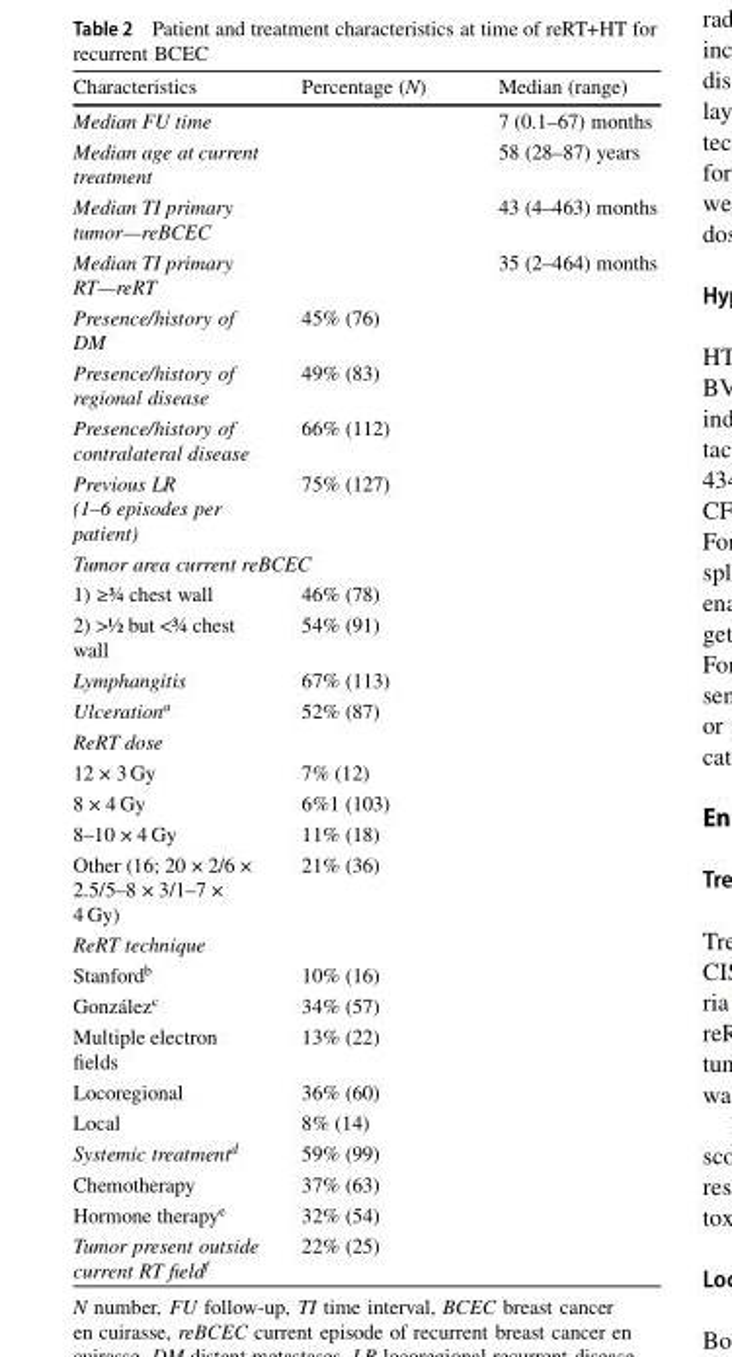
<table><thead><tr><td>Characteristics</td><td>Percentage (N)</td><td>Median (range)</td></tr></thead><tbody><tr><td>Median FU time</td><td></td><td>7 (0.1–67) months</td></tr><tr><td>Median age at current treatment</td><td></td><td>58 (28–87) years</td></tr><tr><td>Median TI primary tumor—reBCEC</td><td></td><td>43 (4–463) months</td></tr><tr><td>Median TI primary RT—reRT</td><td></td><td>35 (2–464) months</td></tr><tr><td>Presence/history of DM</td><td>45% (76)</td><td></td></tr><tr><td>Presence/history of regional disease</td><td>49% (83)</td><td></td></tr><tr><td>Presence/history of contralateral disease</td><td>66% (112)</td><td></td></tr><tr><td>Previous LR (1–6 episodes per patient)</td><td>75% (127)</td><td></td></tr><tr><td colspan="3">Tumor area current reBCEC</td></tr><tr><td>1) ≥¾ chest wall</td><td>46% (78)</td><td></td></tr><tr><td>2) &gt;½ but &lt;¾ chest wall</td><td>54% (91)</td><td></td></tr><tr><td>Lymphangitis</td><td>67% (113)</td><td></td></tr><tr><td>Ulceration<sup>a</sup></td><td>52% (87)</td><td></td></tr><tr><td colspan="3">ReRT dose</td></tr><tr><td>12 × 3 Gy</td><td>7% (12)</td><td></td></tr><tr><td>8 × 4 Gy</td><td>6%1 (103)</td><td></td></tr><tr><td>8–10 × 4 Gy</td><td>11% (18)</td><td></td></tr><tr><td>Other (16; 20 × 2/6 × 2.5/5–8 × 3/1–7 × 4 Gy)</td><td>21% (36)</td><td></td></tr><tr><td colspan="3">ReRT technique</td></tr><tr><td>Stanford<sup>b</sup></td><td>10% (16)</td><td></td></tr><tr><td>González<sup>c</sup></td><td>34% (57)</td><td></td></tr><tr><td>Multiple electron fields</td><td>13% (22)</td><td></td></tr><tr><td>Locoregional</td><td>36% (60)</td><td></td></tr><tr><td>Local</td><td>8% (14)</td><td></td></tr><tr><td>Systemic treatment<sup>d</sup></td><td>59% (99)</td><td></td></tr><tr><td>Chemotherapy</td><td>37% (63)</td><td></td></tr><tr><td>Hormone therapy<sup>e</sup></td><td>32% (54)</td><td></td></tr><tr><td>Tumor present outside current RT field<sup>f</sup></td><td>22% (25)</td><td></td></tr></tbody></table>